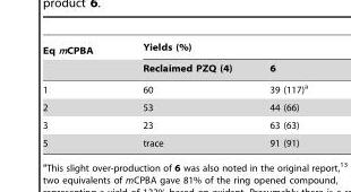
<table><thead><tr><td rowspan="2">Eq mCPBA</td><td colspan="2">Yields (%)</td></tr><tr><td>Reclaimed PZQ (4)</td><td>6</td></tr></thead><tbody><tr><td>1</td><td>60</td><td>39 (117)<sup>a</sup></td></tr><tr><td>2</td><td>53</td><td>44 (66)</td></tr><tr><td>3</td><td>23</td><td>63 (63)</td></tr><tr><td>5</td><td>trace</td><td>91 (91)</td></tr></tbody></table>